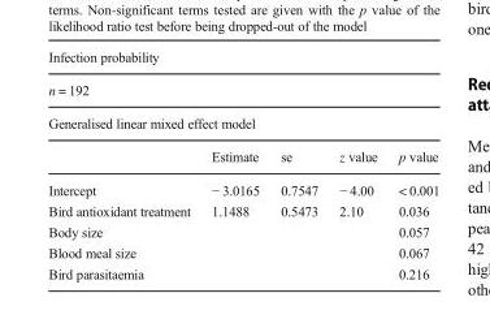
<table><thead><tr><td rowspan="3" colspan="5">Infection probability n = 192 Generalised linear mixed effect model</td></tr><tr></tr><tr></tr><tr><td></td><td>Estimate</td><td>se</td><td>z value</td><td>p value</td></tr></thead><tbody><tr><td>Intercept</td><td>− 3.0165</td><td>0.7547</td><td>− 4.00</td><td>&lt; 0.001</td></tr><tr><td>Bird antioxidant treatment</td><td>1.1488</td><td>0.5473</td><td>2.10</td><td>0.036</td></tr><tr><td>Body size</td><td></td><td></td><td></td><td>0.057</td></tr><tr><td>Blood meal size</td><td></td><td></td><td></td><td>0.067</td></tr><tr><td>Bird parasitaemia</td><td></td><td></td><td></td><td>0.216</td></tr></tbody></table>